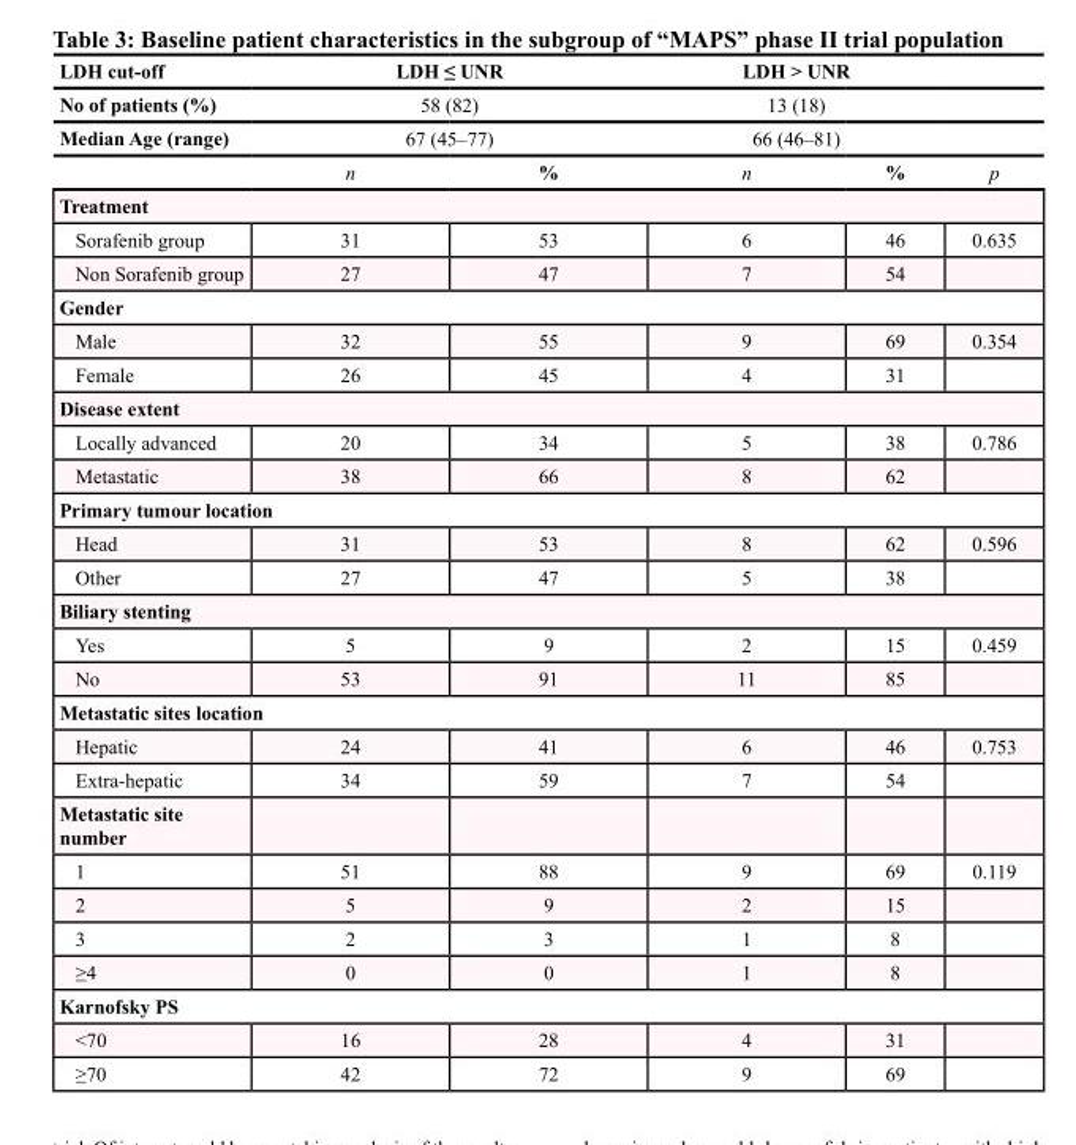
<table><thead><tr><td rowspan="4">LDH cut-off No of patients (%) Median Age (range)</td><td rowspan="3" colspan="2">LDH ≤ UNR 58 (82) 67 (45–77)</td><td rowspan="3" colspan="2">LDH &gt; UNR 13 (18) 66 (46–81)</td><td rowspan="4">p</td></tr><tr></tr><tr></tr><tr><td>n</td><td>%</td><td>n</td><td>%</td></tr></thead><tbody><tr><td colspan="6">Treatment</td></tr><tr><td>Sorafenib group</td><td>31</td><td>53</td><td>6</td><td>46</td><td>0.635</td></tr><tr><td>Non Sorafenib group</td><td>27</td><td>47</td><td>7</td><td>54</td><td></td></tr><tr><td colspan="6">Gender</td></tr><tr><td>Male</td><td>32</td><td>55</td><td>9</td><td>69</td><td>0.354</td></tr><tr><td>Female</td><td>26</td><td>45</td><td>4</td><td>31</td><td></td></tr><tr><td colspan="6">Disease extent</td></tr><tr><td>Locally advanced</td><td>20</td><td>34</td><td>5</td><td>38</td><td>0.786</td></tr><tr><td>Metastatic</td><td>38</td><td>66</td><td>8</td><td>62</td><td></td></tr><tr><td colspan="6">Primary tumour location</td></tr><tr><td>Head</td><td>31</td><td>53</td><td>8</td><td>62</td><td>0.596</td></tr><tr><td>Other</td><td>27</td><td>47</td><td>5</td><td>38</td><td></td></tr><tr><td colspan="6">Biliary stenting</td></tr><tr><td>Yes</td><td>5</td><td>9</td><td>2</td><td>15</td><td>0.459</td></tr><tr><td>No</td><td>53</td><td>91</td><td>11</td><td>85</td><td></td></tr><tr><td colspan="6">Metastatic sites location</td></tr><tr><td>Hepatic</td><td>24</td><td>41</td><td>6</td><td>46</td><td>0.753</td></tr><tr><td>Extra-hepatic</td><td>34</td><td>59</td><td>7</td><td>54</td><td></td></tr><tr><td colspan="6">Metastatic site number</td></tr><tr><td>1</td><td>51</td><td>88</td><td>9</td><td>69</td><td>0.119</td></tr><tr><td>2</td><td>5</td><td>9</td><td>2</td><td>15</td><td></td></tr><tr><td>3</td><td>2</td><td>3</td><td>1</td><td>8</td><td></td></tr><tr><td>≥4</td><td>0</td><td>0</td><td>1</td><td>8</td><td></td></tr><tr><td colspan="6">Karnofsky PS</td></tr><tr><td>&lt;70</td><td>16</td><td>28</td><td>4</td><td>31</td><td></td></tr><tr><td>≥70</td><td>42</td><td>72</td><td>9</td><td>69</td><td></td></tr></tbody></table>